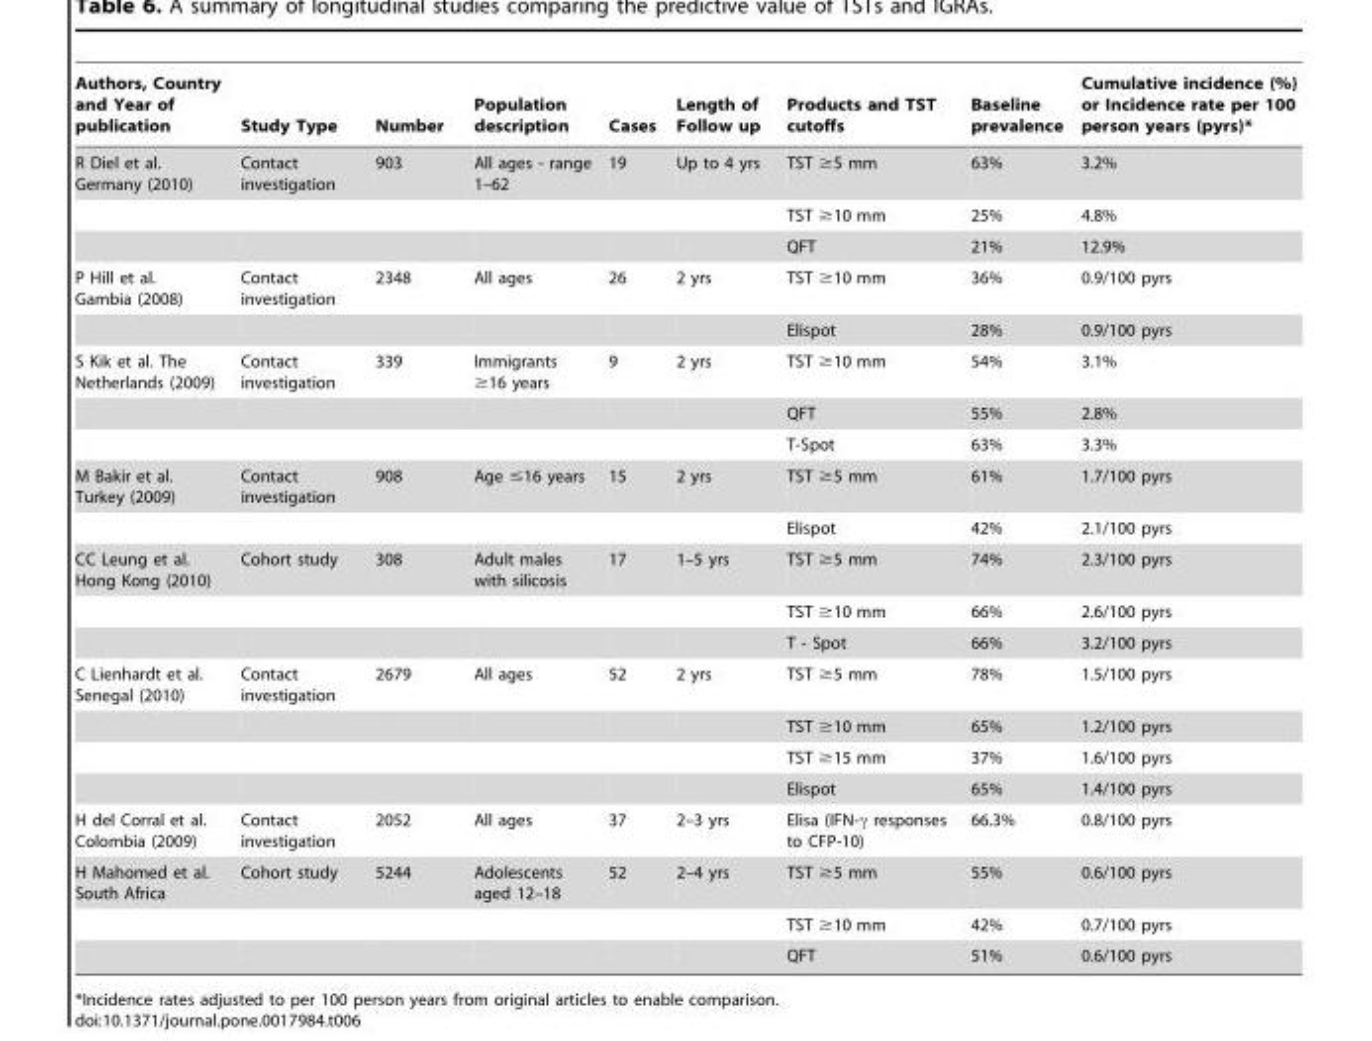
<table><thead><tr><td>Authors, Country and Year of publication</td><td>Study Type</td><td>Number</td><td>Population description</td><td>Cases</td><td>Length of Follow up</td><td>Products and TST cutoffs</td><td>Baseline prevalence</td><td>Cumulative incidence (%) or Incidence rate per 100 person years (pyrs)*</td></tr></thead><tbody><tr><td rowspan="3">R Diel et al. Germany (2010)</td><td>Contact investigation</td><td>903</td><td>All ages - range 1–62</td><td>19</td><td>Up to 4 yrs</td><td>TST ≥5 mm</td><td>63%</td><td>3.2%</td></tr><tr><td></td><td></td><td></td><td></td><td></td><td>TST ≥10 mm</td><td>25%</td><td>4.8%</td></tr><tr><td></td><td></td><td></td><td></td><td></td><td>QFT</td><td>21%</td><td>12.9%</td></tr><tr><td rowspan="2">P Hill et al. Gambia (2008)</td><td>Contact investigation</td><td>2348</td><td>All ages</td><td>26</td><td>2 yrs</td><td>TST ≥10 mm</td><td>36%</td><td>0.9/100 pyrs</td></tr><tr><td></td><td></td><td></td><td></td><td></td><td>Elispot</td><td>28%</td><td>0.9/100 pyrs</td></tr><tr><td rowspan="3">S Kik et al. The Netherlands (2009)</td><td>Contact investigation</td><td>339</td><td>Immigrants ≥16 years</td><td>9</td><td>2 yrs</td><td>TST ≥10 mm</td><td>54%</td><td>3.1%</td></tr><tr><td></td><td></td><td></td><td></td><td></td><td>QFT</td><td>55%</td><td>2.8%</td></tr><tr><td></td><td></td><td></td><td></td><td></td><td>T-Spot</td><td>63%</td><td>3.3%</td></tr><tr><td rowspan="2">M Bakir et al. Turkey (2009)</td><td>Contact investigation</td><td>908</td><td>Age ≤16 years</td><td>15</td><td>2 yrs</td><td>TST ≥5 mm</td><td>61%</td><td>1.7/100 pyrs</td></tr><tr><td></td><td></td><td></td><td></td><td></td><td>Elispot</td><td>42%</td><td>2.1/100 pyrs</td></tr><tr><td rowspan="3">CC Leung et al. Hong Kong (2010)</td><td>Cohort study</td><td>308</td><td>Adult males with silicosis</td><td>17</td><td>1–5 yrs</td><td>TST ≥5 mm</td><td>74%</td><td>2.3/100 pyrs</td></tr><tr><td></td><td></td><td></td><td></td><td></td><td>TST ≥10 mm</td><td>66%</td><td>2.6/100 pyrs</td></tr><tr><td></td><td></td><td></td><td></td><td></td><td>T - Spot</td><td>66%</td><td>3.2/100 pyrs</td></tr><tr><td rowspan="4">C Lienhardt et al. Senegal (2010)</td><td>Contact investigation</td><td>2679</td><td>All ages</td><td>52</td><td>2 yrs</td><td>TST ≥5 mm</td><td>78%</td><td>1.5/100 pyrs</td></tr><tr><td></td><td></td><td></td><td></td><td></td><td>TST ≥10 mm</td><td>65%</td><td>1.2/100 pyrs</td></tr><tr><td></td><td></td><td></td><td></td><td></td><td>TST ≥15 mm</td><td>37%</td><td>1.6/100 pyrs</td></tr><tr><td></td><td></td><td></td><td></td><td></td><td>Elispot</td><td>65%</td><td>1.4/100 pyrs</td></tr><tr><td>H del Corral et al. Colombia (2009)</td><td>Contact investigation</td><td>2052</td><td>All ages</td><td>37</td><td>2–3 yrs</td><td>Elisa (IFN-γ responses to CFP-10)</td><td>66.3%</td><td>0.8/100 pyrs</td></tr><tr><td rowspan="3">H Mahomed et al. South Africa</td><td>Cohort study</td><td>5244</td><td>Adolescents aged 12–18</td><td>52</td><td>2–4 yrs</td><td>TST ≥5 mm</td><td>55%</td><td>0.6/100 pyrs</td></tr><tr><td></td><td></td><td></td><td></td><td></td><td>TST ≥10 mm</td><td>42%</td><td>0.7/100 pyrs</td></tr><tr><td></td><td></td><td></td><td></td><td></td><td>QFT</td><td>51%</td><td>0.6/100 pyrs</td></tr></tbody></table>